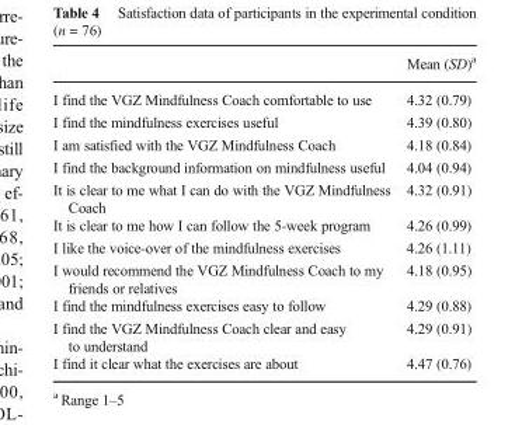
<table><thead><tr><td></td><td>Mean (SD)<sup>a</sup></td></tr></thead><tbody><tr><td>I find the VGZ Mindfulness Coach comfortable to use</td><td>4.32 (0.79)</td></tr><tr><td>I find the mindfulness exercises useful</td><td>4.39 (0.80)</td></tr><tr><td>I am satisfied with the VGZ Mindfulness Coach</td><td>4.18 (0.84)</td></tr><tr><td>I find the background information on mindfulness useful</td><td>4.04 (0.94)</td></tr><tr><td>It is clear to me what I can do with the VGZ Mindfulness Coach</td><td>4.32 (0.91)</td></tr><tr><td>It is clear to me how I can follow the 5-week program</td><td>4.26 (0.99)</td></tr><tr><td>I like the voice-over of the mindfulness exercises</td><td>4.26 (1.11)</td></tr><tr><td>I would recommend the VGZ Mindfulness Coach to my friends or relatives</td><td>4.18 (0.95)</td></tr><tr><td>I find the mindfulness exercises easy to follow</td><td>4.29 (0.88)</td></tr><tr><td>I find the VGZ Mindfulness Coach clear and easy to understand</td><td>4.29 (0.91)</td></tr><tr><td>I find it clear what the exercises are about</td><td>4.47 (0.76)</td></tr></tbody></table>